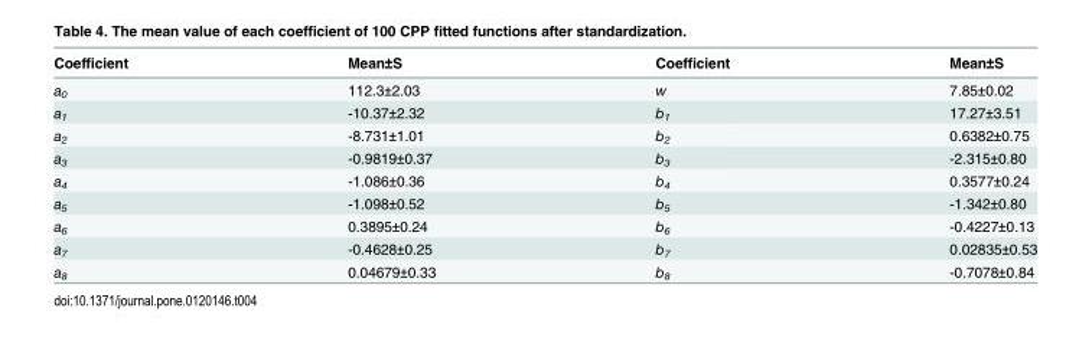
<table><thead><tr><td>Coefficient</td><td>Mean±S</td><td>Coefficient</td><td>Mean±S</td></tr></thead><tbody><tr><td>a<sub>0</sub></td><td>112.3±2.03</td><td>w</td><td>7.85±0.02</td></tr><tr><td>a<sub>1</sub></td><td>-10.37±2.32</td><td>b<sub>1</sub></td><td>17.27±3.51</td></tr><tr><td>a<sub>2</sub></td><td>-8.731±1.01</td><td>b<sub>2</sub></td><td>0.6382±0.75</td></tr><tr><td>a<sub>3</sub></td><td>-0.9819±0.37</td><td>b<sub>3</sub></td><td>-2.315±0.80</td></tr><tr><td>a<sub>4</sub></td><td>-1.086±0.36</td><td>b<sub>4</sub></td><td>0.3577±0.24</td></tr><tr><td>a<sub>5</sub></td><td>-1.098±0.52</td><td>b<sub>5</sub></td><td>-1.342±0.80</td></tr><tr><td>a<sub>6</sub></td><td>0.3895±0.24</td><td>b<sub>6</sub></td><td>-0.4227±0.13</td></tr><tr><td>a<sub>7</sub></td><td>-0.4628±0.25</td><td>b<sub>7</sub></td><td>0.02835±0.53</td></tr><tr><td>a<sub>8</sub></td><td>0.04679±0.33</td><td>b<sub>8</sub></td><td>-0.7078±0.84</td></tr></tbody></table>